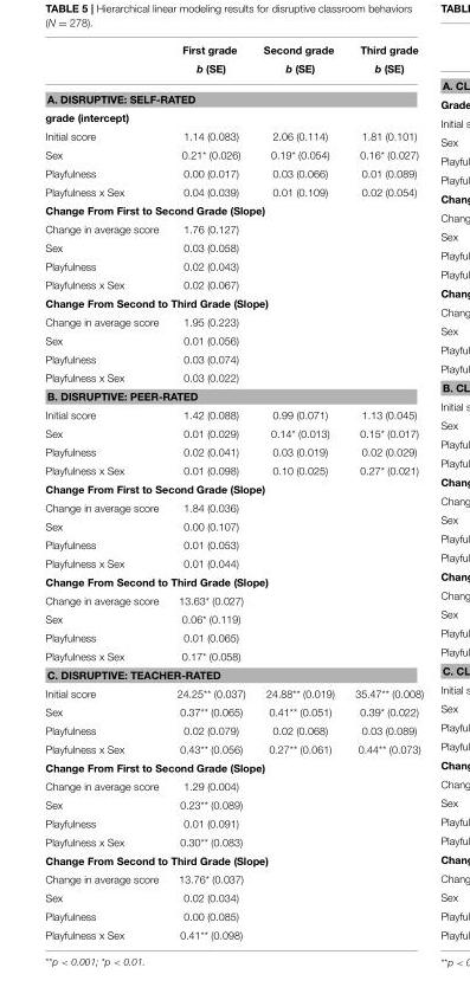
<table><thead><tr><td></td><td>First grade b (SE)</td><td>Second grade b (SE)</td><td>Third grade b (SE)</td></tr></thead><tbody><tr><td colspan="4">A. DISRUPTIVE: SELF-RATED</td></tr><tr><td colspan="4">grade (intercept)</td></tr><tr><td>Initial score</td><td>1.14 (0.083)</td><td>2.06 (0.114)</td><td>1.81 (0.101)</td></tr><tr><td>Sex</td><td>0.21* (0.026)</td><td>0.19* (0.054)</td><td>0.16* (0.027)</td></tr><tr><td>Playfulness</td><td>0.00 (0.017)</td><td>0.03 (0.066)</td><td>0.01 (0.089)</td></tr><tr><td>Playfulness x Sex</td><td>0.04 (0.039)</td><td>0.01 (0.109)</td><td>0.02 (0.054)</td></tr><tr><td colspan="4">Change From First to Second Grade (Slope)</td></tr><tr><td>Change in average score</td><td>1.76 (0.127)</td><td colspan="2"></td></tr><tr><td>Sex</td><td>0.03 (0.058)</td><td colspan="2"></td></tr><tr><td>Playfulness</td><td>0.02 (0.043)</td><td colspan="2"></td></tr><tr><td>Playfulness x Sex</td><td>0.02 (0.067)</td><td colspan="2"></td></tr><tr><td colspan="4">Change From Second to Third Grade (Slope)</td></tr><tr><td>Change in average score</td><td>1.95 (0.223)</td><td colspan="2"></td></tr><tr><td>Sex</td><td>0.01 (0.056)</td><td colspan="2"></td></tr><tr><td>Playfulness</td><td>0.03 (0.074)</td><td colspan="2"></td></tr><tr><td>Playfulness x Sex</td><td>0.03 (0.022)</td><td colspan="2"></td></tr><tr><td colspan="4">B. DISRUPTIVE: PEER-RATED</td></tr><tr><td>Initial score</td><td>1.42 (0.088)</td><td>0.99 (0.071)</td><td>1.13 (0.045)</td></tr><tr><td>Sex</td><td>0.01 (0.029)</td><td>0.14* (0.013)</td><td>0.15* (0.017)</td></tr><tr><td>Playfulness</td><td>0.02 (0.041)</td><td>0.03 (0.019)</td><td>0.02 (0.029)</td></tr><tr><td>Playfulness x Sex</td><td>0.01 (0.098)</td><td>0.10 (0.025)</td><td>0.27* (0.021)</td></tr><tr><td colspan="4">Change From First to Second Grade (Slope)</td></tr><tr><td>Change in average score</td><td>1.84 (0.036)</td><td colspan="2"></td></tr><tr><td>Sex</td><td>0.00 (0.107)</td><td colspan="2"></td></tr><tr><td>Playfulness</td><td>0.01 (0.053)</td><td colspan="2"></td></tr><tr><td>Playfulness x Sex</td><td>0.01 (0.044)</td><td colspan="2"></td></tr><tr><td colspan="4">Change From Second to Third Grade (Slope)</td></tr><tr><td>Change in average score</td><td>13.63* (0.027)</td><td colspan="2"></td></tr><tr><td>Sex</td><td>0.06* (0.119)</td><td colspan="2"></td></tr><tr><td>Playfulness</td><td>0.01 (0.065)</td><td colspan="2"></td></tr><tr><td>Playfulness x Sex</td><td>0.17* (0.058)</td><td colspan="2"></td></tr><tr><td colspan="4">C. DISRUPTIVE: TEACHER-RATED</td></tr><tr><td>Initial score</td><td>24.25** (0.037)</td><td>24.88** (0.019)</td><td>35.47** (0.008)</td></tr><tr><td>Sex</td><td>0.37** (0.065)</td><td>0.41** (0.051)</td><td>0.39* (0.022)</td></tr><tr><td>Playfulness</td><td>0.02 (0.079)</td><td>0.02 (0.068)</td><td>0.03 (0.089)</td></tr><tr><td>Playfulness x Sex</td><td>0.43** (0.056)</td><td>0.27** (0.061)</td><td>0.44** (0.073)</td></tr><tr><td colspan="4">Change From First to Second Grade (Slope)</td></tr><tr><td>Change in average score</td><td>1.29 (0.004)</td><td colspan="2"></td></tr><tr><td>Sex</td><td>0.23** (0.089)</td><td colspan="2"></td></tr><tr><td>Playfulness</td><td>0.01 (0.091)</td><td colspan="2"></td></tr><tr><td>Playfulness x Sex</td><td>0.30** (0.083)</td><td colspan="2"></td></tr><tr><td colspan="4">Change From Second to Third Grade (Slope)</td></tr><tr><td>Change in average score</td><td>13.76* (0.037)</td><td colspan="2"></td></tr><tr><td>Sex</td><td>0.02 (0.034)</td><td colspan="2"></td></tr><tr><td>Playfulness</td><td>0.00 (0.085)</td><td colspan="2"></td></tr><tr><td>Playfulness x Sex</td><td>0.41** (0.098)</td><td colspan="2"></td></tr></tbody></table>